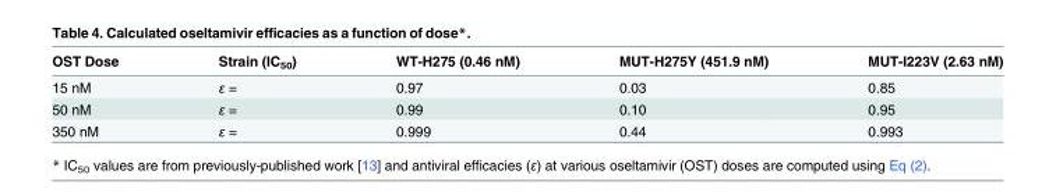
<table><thead><tr><td>OST Dose</td><td>Strain (IC<sub>50</sub>)</td><td>WT-H275 (0.46 nM)</td><td>MUT-H275Y (451.9 nM)</td><td>MUT-I223V (2.63 nM)</td></tr></thead><tbody><tr><td>15 nM</td><td>ε =</td><td>0.97</td><td>0.03</td><td>0.85</td></tr><tr><td>50 nM</td><td>ε =</td><td>0.99</td><td>0.10</td><td>0.95</td></tr><tr><td>350 nM</td><td>ε =</td><td>0.999</td><td>0.44</td><td>0.993</td></tr></tbody></table>